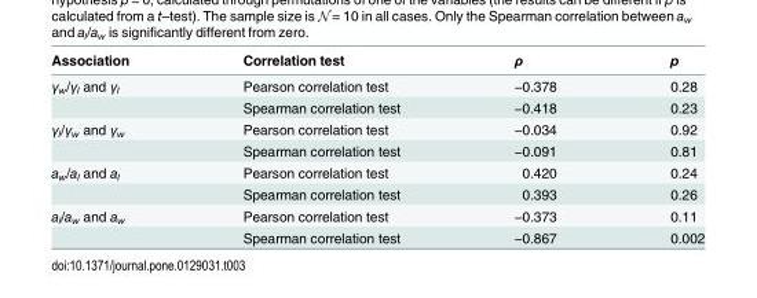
<table><thead><tr><td>Association</td><td>Correlation test</td><td>ρ</td><td>p</td></tr></thead><tbody><tr><td rowspan="2">γ<sub>w</sub>/γ<sub>l</sub> and γ<sub>l</sub></td><td>Pearson correlation test</td><td>−0.378</td><td>0.28</td></tr><tr><td>Spearman correlation test</td><td>−0.418</td><td>0.23</td></tr><tr><td rowspan="2">γ<sub>l</sub>/γ<sub>w</sub> and γ<sub>w</sub></td><td>Pearson correlation test</td><td>−0.034</td><td>0.92</td></tr><tr><td>Spearman correlation test</td><td>−0.091</td><td>0.81</td></tr><tr><td rowspan="2">a<sub>w</sub>/a<sub>l</sub> and a<sub>l</sub></td><td>Pearson correlation test</td><td>0.420</td><td>0.24</td></tr><tr><td>Spearman correlation test</td><td>0.393</td><td>0.26</td></tr><tr><td rowspan="2">a<sub>l</sub>/a<sub>w</sub> and a<sub>w</sub></td><td>Pearson correlation test</td><td>−0.373</td><td>0.11</td></tr><tr><td>Spearman correlation test</td><td>−0.867</td><td>0.002</td></tr></tbody></table>